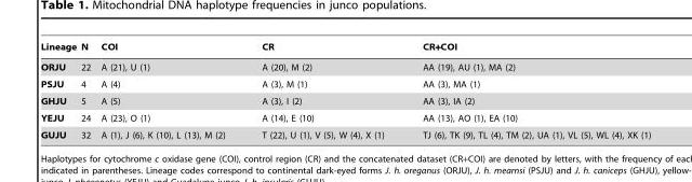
<table><thead><tr><td>Lineage</td><td>N</td><td>COI</td><td>CR</td><td>CR+COI</td></tr></thead><tbody><tr><td>ORJU</td><td>22</td><td>A (21), U (1)</td><td>A (20), M (2)</td><td>AA (19), AU (1), MA (2)</td></tr><tr><td>PSJU</td><td>4</td><td>A (4)</td><td>A (3), M (1)</td><td>AA (3), MA (1)</td></tr><tr><td>GHJU</td><td>5</td><td>A (5)</td><td>A (3), I (2)</td><td>AA (3), IA (2)</td></tr><tr><td>YEJU</td><td>24</td><td>A (23), O (1)</td><td>A (14), E (10)</td><td>AA (13), AO (1), EA (10)</td></tr><tr><td>GUJU</td><td>32</td><td>A (1), J (6), K (10), L (13), M (2)</td><td>T (22), U (1), V (5), W (4), X (1)</td><td>TJ (6), TK (9), TL (4), TM (2), UA (1), VL (5), WL (4), XK (1)</td></tr></tbody></table>